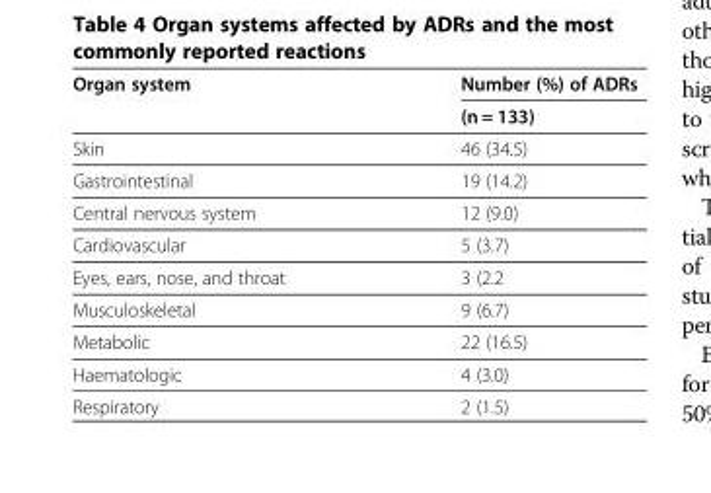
<table><thead><tr><td rowspan="2">Organ system</td><td rowspan="2">Number (%) of ADRs (n = 133)</td></tr><tr></tr></thead><tbody><tr><td>Skin</td><td>46 (34.5)</td></tr><tr><td>Gastrointestinal</td><td>19 (14.2)</td></tr><tr><td>Central nervous system</td><td>12 (9.0)</td></tr><tr><td>Cardiovascular</td><td>5 (3.7)</td></tr><tr><td>Eyes, ears, nose, and throat</td><td>3 (2.2</td></tr><tr><td>Musculoskeletal</td><td>9 (6.7)</td></tr><tr><td>Metabolic</td><td>22 (16.5)</td></tr><tr><td>Haematologic</td><td>4 (3.0)</td></tr><tr><td>Respiratory</td><td>2 (1.5)</td></tr></tbody></table>